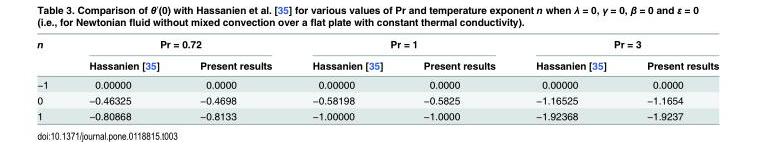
<table><thead><tr><td rowspan="2">n</td><td colspan="2">Pr = 0.72</td><td colspan="2">Pr = 1</td><td colspan="2">Pr = 3</td></tr><tr><td>Hassanien [35]</td><td>Present results</td><td>Hassanien [35]</td><td>Present results</td><td>Hassanien [35]</td><td>Present results</td></tr></thead><tbody><tr><td>−1</td><td>0.00000</td><td>0.0000</td><td>0.00000</td><td>0.0000</td><td>0.00000</td><td>0.0000</td></tr><tr><td>0</td><td>−0.46325</td><td>−0.4698</td><td>−0.58198</td><td>−0.5825</td><td>−1.16525</td><td>−1.1654</td></tr><tr><td>1</td><td>−0.80868</td><td>−0.8133</td><td>−1.00000</td><td>−1.0000</td><td>−1.92368</td><td>−1.9237</td></tr></tbody></table>